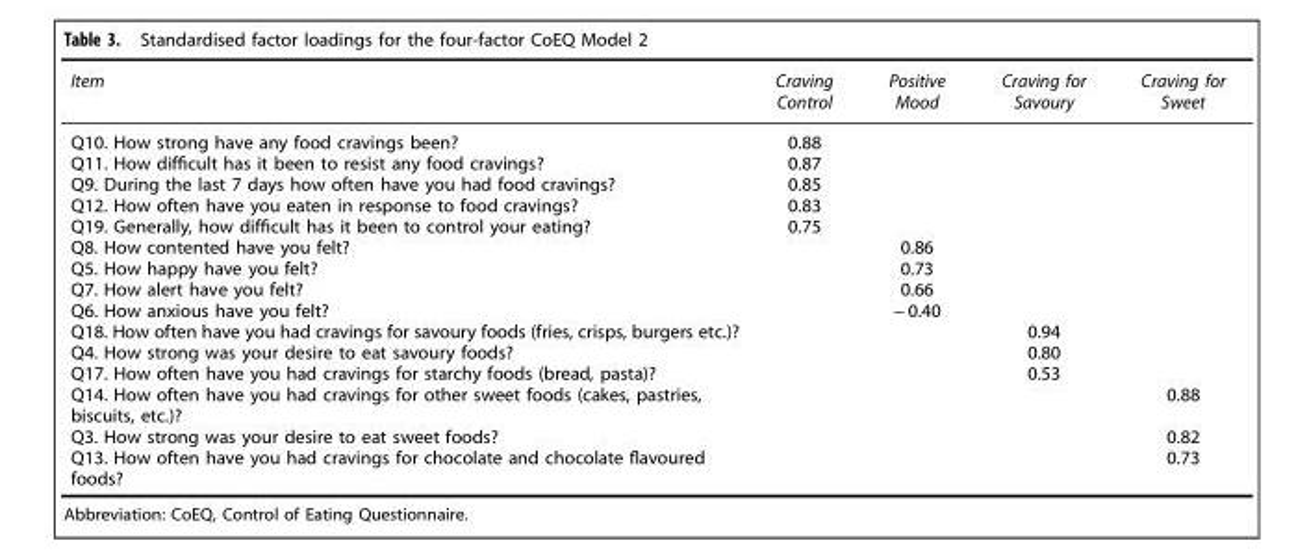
<table><thead><tr><td>Item</td><td>Craving Control</td><td>Positive Mood</td><td>Craving for Savoury</td><td>Craving for Sweet</td></tr></thead><tbody><tr><td>Q10. How strong have any food cravings been?</td><td>0.88</td><td></td><td></td><td></td></tr><tr><td>Q11. How difficult has it been to resist any food cravings?</td><td>0.87</td><td></td><td></td><td></td></tr><tr><td>Q9. During the last 7 days how often have you had food cravings?</td><td>0.85</td><td></td><td></td><td></td></tr><tr><td>Q12. How often have you eaten in response to food cravings?</td><td>0.83</td><td></td><td></td><td></td></tr><tr><td>Q19. Generally, how difficult has it been to control your eating?</td><td>0.75</td><td></td><td></td><td></td></tr><tr><td>Q8. How contented have you felt?</td><td></td><td>0.86</td><td></td><td></td></tr><tr><td>Q5. How happy have you felt?</td><td></td><td>0.73</td><td></td><td></td></tr><tr><td>Q7. How alert have you felt?</td><td></td><td>0.66</td><td></td><td></td></tr><tr><td>Q6. How anxious have you felt?</td><td></td><td>− 0.40</td><td></td><td></td></tr><tr><td>Q18. How often have you had cravings for savoury foods (fries, crisps, burgers etc.)?</td><td></td><td></td><td>0.94</td><td></td></tr><tr><td>Q4. How strong was your desire to eat savoury foods?</td><td></td><td></td><td>0.80</td><td></td></tr><tr><td>Q17. How often have you had cravings for starchy foods (bread, pasta)?</td><td></td><td></td><td>0.53</td><td></td></tr><tr><td>Q14. How often have you had cravings for other sweet foods (cakes, pastries, biscuits, etc.)?</td><td></td><td></td><td></td><td>0.88</td></tr><tr><td>Q3. How strong was your desire to eat sweet foods?</td><td></td><td></td><td></td><td>0.82</td></tr><tr><td>Q13. How often have you had cravings for chocolate and chocolate flavoured foods?</td><td></td><td></td><td></td><td>0.73</td></tr></tbody></table>